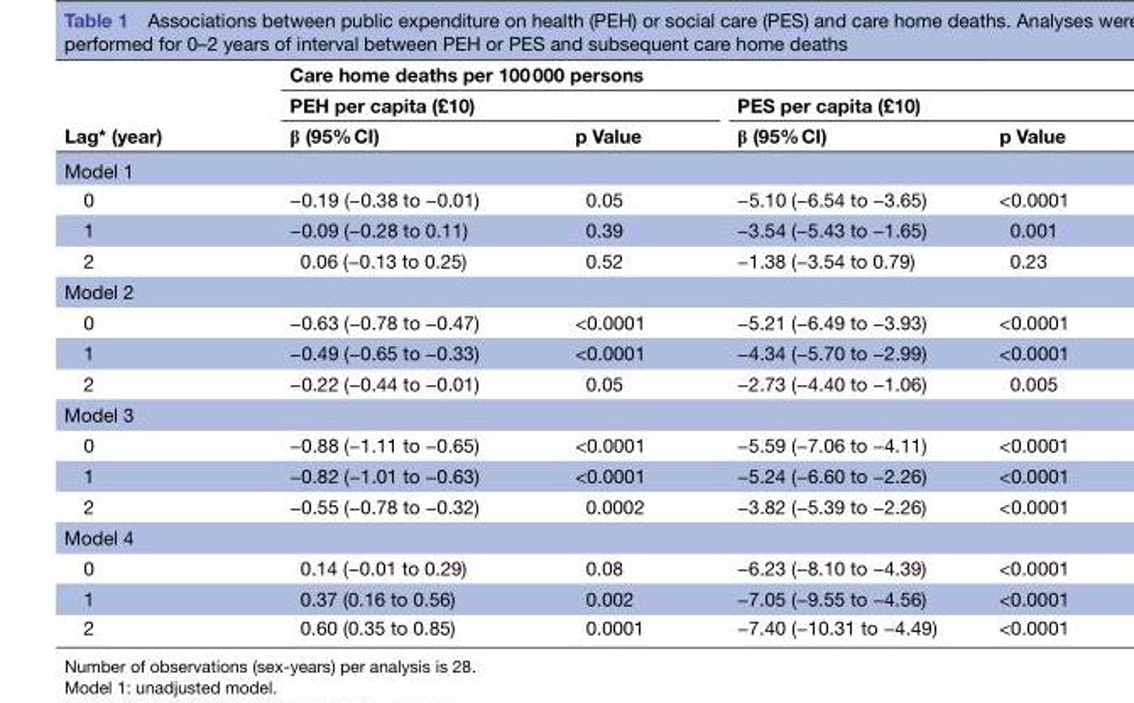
<table><thead><tr><td rowspan="3">Lag* (year)</td><td colspan="4">Care home deaths per 100 000 persons</td></tr><tr><td colspan="2">PEH per capita (£10)</td><td colspan="2">PES per capita (£10)</td></tr><tr><td>β (95% CI)</td><td>p Value</td><td>β (95% CI)</td><td>p Value</td></tr></thead><tbody><tr><td colspan="5">Model 1</td></tr><tr><td>0</td><td>−0.19 (−0.38 to −0.01)</td><td>0.05</td><td>−5.10 (−6.54 to −3.65)</td><td>&lt;0.0001</td></tr><tr><td>1</td><td>−0.09 (−0.28 to 0.11)</td><td>0.39</td><td>−3.54 (−5.43 to −1.65)</td><td>0.001</td></tr><tr><td>2</td><td>0.06 (−0.13 to 0.25)</td><td>0.52</td><td>−1.38 (−3.54 to 0.79)</td><td>0.23</td></tr><tr><td colspan="5">Model 2</td></tr><tr><td>0</td><td>−0.63 (−0.78 to −0.47)</td><td>&lt;0.0001</td><td>−5.21 (−6.49 to −3.93)</td><td>&lt;0.0001</td></tr><tr><td>1</td><td>−0.49 (−0.65 to −0.33)</td><td>&lt;0.0001</td><td>−4.34 (−5.70 to −2.99)</td><td>&lt;0.0001</td></tr><tr><td>2</td><td>−0.22 (−0.44 to −0.01)</td><td>0.05</td><td>−2.73 (−4.40 to −1.06)</td><td>0.005</td></tr><tr><td colspan="5">Model 3</td></tr><tr><td>0</td><td>−0.88 (−1.11 to −0.65)</td><td>&lt;0.0001</td><td>−5.59 (−7.06 to −4.11)</td><td>&lt;0.0001</td></tr><tr><td>1</td><td>−0.82 (−1.01 to −0.63)</td><td>&lt;0.0001</td><td>−5.24 (−6.60 to −2.26)</td><td>&lt;0.0001</td></tr><tr><td>2</td><td>−0.55 (−0.78 to −0.32)</td><td>0.0002</td><td>−3.82 (−5.39 to −2.26)</td><td>&lt;0.0001</td></tr><tr><td colspan="5">Model 4</td></tr><tr><td>0</td><td>0.14 (−0.01 to 0.29)</td><td>0.08</td><td>−6.23 (−8.10 to −4.39)</td><td>&lt;0.0001</td></tr><tr><td>1</td><td>0.37 (0.16 to 0.56)</td><td>0.002</td><td>−7.05 (−9.55 to −4.56)</td><td>&lt;0.0001</td></tr><tr><td>2</td><td>0.60 (0.35 to 0.85)</td><td>0.0001</td><td>−7.40 (−10.31 to −4.49)</td><td>&lt;0.0001</td></tr></tbody></table>